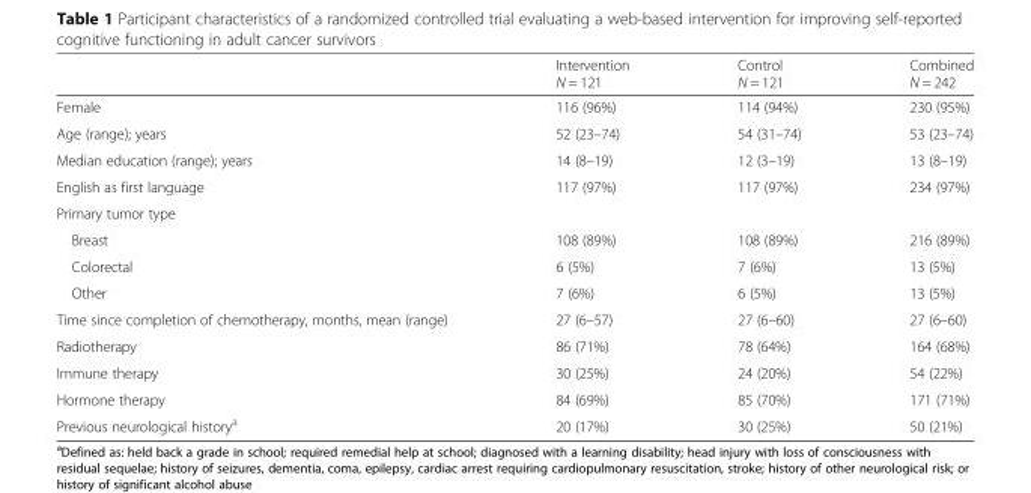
<table><thead><tr><td></td><td>Intervention N = 121</td><td>Control N = 121</td><td>Combined N = 242</td></tr></thead><tbody><tr><td>Female</td><td>116 (96%)</td><td>114 (94%)</td><td>230 (95%)</td></tr><tr><td>Age (range); years</td><td>52 (23–74)</td><td>54 (31–74)</td><td>53 (23–74)</td></tr><tr><td>Median education (range); years</td><td>14 (8–19)</td><td>12 (3–19)</td><td>13 (8–19)</td></tr><tr><td>English as first language</td><td>117 (97%)</td><td>117 (97%)</td><td>234 (97%)</td></tr><tr><td colspan="4">Primary tumor type</td></tr><tr><td>Breast</td><td>108 (89%)</td><td>108 (89%)</td><td>216 (89%)</td></tr><tr><td>Colorectal</td><td>6 (5%)</td><td>7 (6%)</td><td>13 (5%)</td></tr><tr><td>Other</td><td>7 (6%)</td><td>6 (5%)</td><td>13 (5%)</td></tr><tr><td>Time since completion of chemotherapy, months, mean (range)</td><td>27 (6–57)</td><td>27 (6–60)</td><td>27 (6–60)</td></tr><tr><td>Radiotherapy</td><td>86 (71%)</td><td>78 (64%)</td><td>164 (68%)</td></tr><tr><td>Immune therapy</td><td>30 (25%)</td><td>24 (20%)</td><td>54 (22%)</td></tr><tr><td>Hormone therapy</td><td>84 (69%)</td><td>85 (70%)</td><td>171 (71%)</td></tr><tr><td>Previous neurological history<sup>a</sup></td><td>20 (17%)</td><td>30 (25%)</td><td>50 (21%)</td></tr></tbody></table>